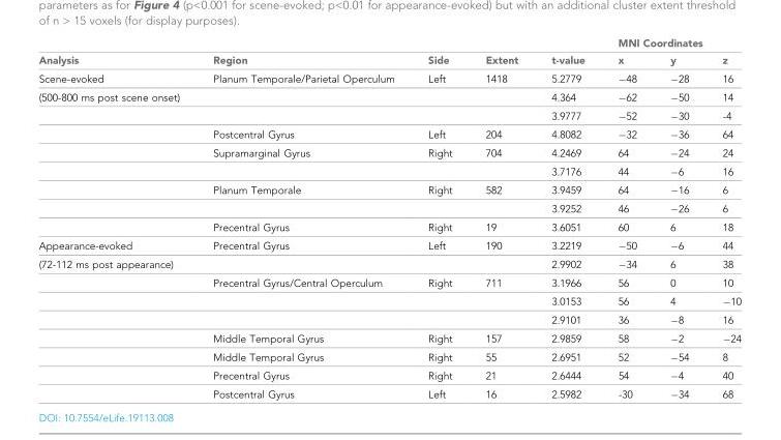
<table><thead><tr><td rowspan="2">Analysis</td><td rowspan="2">Region</td><td rowspan="2">Side</td><td rowspan="2">Extent</td><td rowspan="2">t-value</td><td colspan="3">MNI Coordinates</td></tr><tr><td>x</td><td>y</td><td>z</td></tr></thead><tbody><tr><td>Scene-evoked</td><td>Planum Temporale/Parietal Operculum</td><td>Left</td><td>1418</td><td>5.2779</td><td>−48</td><td>−28</td><td>16</td></tr><tr><td rowspan="8">(500-800 ms post scene onset)</td><td></td><td></td><td></td><td>4.364</td><td>−62</td><td>−50</td><td>14</td></tr><tr><td></td><td></td><td></td><td>3.9777</td><td>−52</td><td>−30</td><td>-4</td></tr><tr><td>Postcentral Gyrus</td><td>Left</td><td>204</td><td>4.8082</td><td>−32</td><td>−36</td><td>64</td></tr><tr><td>Supramarginal Gyrus</td><td>Right</td><td>704</td><td>4.2469</td><td>64</td><td>−24</td><td>24</td></tr><tr><td></td><td></td><td></td><td>3.7176</td><td>44</td><td>−6</td><td>16</td></tr><tr><td>Planum Temporale</td><td>Right</td><td>582</td><td>3.9459</td><td>64</td><td>−16</td><td>6</td></tr><tr><td></td><td></td><td></td><td>3.9252</td><td>46</td><td>−26</td><td>6</td></tr><tr><td>Precentral Gyrus</td><td>Right</td><td>19</td><td>3.6051</td><td>60</td><td>6</td><td>18</td></tr><tr><td>Appearance-evoked</td><td>Precentral Gyrus</td><td>Left</td><td>190</td><td>3.2219</td><td>−50</td><td>−6</td><td>44</td></tr><tr><td rowspan="8">(72-112 ms post appearance)</td><td></td><td></td><td></td><td>2.9902</td><td>−34</td><td>6</td><td>38</td></tr><tr><td>Precentral Gyrus/Central Operculum</td><td>Right</td><td>711</td><td>3.1966</td><td>56</td><td>0</td><td>10</td></tr><tr><td></td><td></td><td></td><td>3.0153</td><td>56</td><td>4</td><td>−10</td></tr><tr><td></td><td></td><td></td><td>2.9101</td><td>36</td><td>−8</td><td>16</td></tr><tr><td>Middle Temporal Gyrus</td><td>Right</td><td>157</td><td>2.9859</td><td>58</td><td>−2</td><td>−24</td></tr><tr><td>Middle Temporal Gyrus</td><td>Right</td><td>55</td><td>2.6951</td><td>52</td><td>−54</td><td>8</td></tr><tr><td>Precentral Gyrus</td><td>Right</td><td>21</td><td>2.6444</td><td>54</td><td>−4</td><td>40</td></tr><tr><td>Postcentral Gyrus</td><td>Left</td><td>16</td><td>2.5982</td><td>-30</td><td>−34</td><td>68</td></tr></tbody></table>